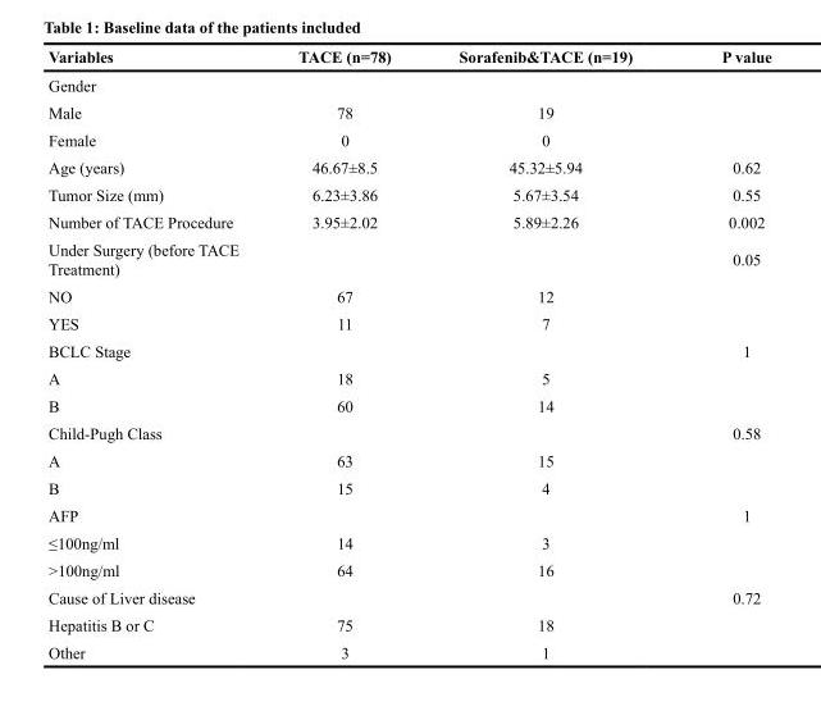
<table><thead><tr><td>Variables</td><td>TACE (n=78)</td><td>Sorafenib&amp;TACE (n=19)</td><td>P value</td></tr></thead><tbody><tr><td colspan="4">Gender</td></tr><tr><td>Male</td><td>78</td><td>19</td><td></td></tr><tr><td>Female</td><td>0</td><td>0</td><td></td></tr><tr><td>Age (years)</td><td>46.67±8.5</td><td>45.32±5.94</td><td>0.62</td></tr><tr><td>Tumor Size (mm)</td><td>6.23±3.86</td><td>5.67±3.54</td><td>0.55</td></tr><tr><td>Number of TACE Procedure</td><td>3.95±2.02</td><td>5.89±2.26</td><td>0.002</td></tr><tr><td>Under Surgery (before TACE Treatment)</td><td></td><td></td><td>0.05</td></tr><tr><td>NO</td><td>67</td><td>12</td><td></td></tr><tr><td>YES</td><td>11</td><td>7</td><td></td></tr><tr><td>BCLC Stage</td><td></td><td></td><td>1</td></tr><tr><td>A</td><td>18</td><td>5</td><td></td></tr><tr><td>B</td><td>60</td><td>14</td><td></td></tr><tr><td>Child-Pugh Class</td><td></td><td></td><td>0.58</td></tr><tr><td>A</td><td>63</td><td>15</td><td></td></tr><tr><td>B</td><td>15</td><td>4</td><td></td></tr><tr><td>AFP</td><td></td><td></td><td>1</td></tr><tr><td>≤100ng/ml</td><td>14</td><td>3</td><td></td></tr><tr><td>&gt;100ng/ml</td><td>64</td><td>16</td><td></td></tr><tr><td>Cause of Liver disease</td><td></td><td></td><td>0.72</td></tr><tr><td>Hepatitis B or C</td><td>75</td><td>18</td><td></td></tr><tr><td>Other</td><td>3</td><td>1</td><td></td></tr></tbody></table>